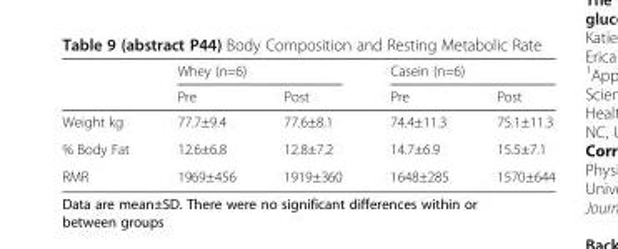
<table><thead><tr><td rowspan="2"></td><td colspan="2">Whey (n=6)</td><td colspan="2">Casein (n=6)</td></tr><tr><td>Pre</td><td>Post</td><td>Pre</td><td>Post</td></tr></thead><tbody><tr><td>Weight kg</td><td>77.7±9.4</td><td>77.6±8.1</td><td>74.4±11.3</td><td>75.1±11.3</td></tr><tr><td>% Body Fat</td><td>12.6±6.8</td><td>12.8±7.2</td><td>14.7±6.9</td><td>15.5±7.1</td></tr><tr><td>RMR</td><td>1969±456</td><td>1919±360</td><td>1648±285</td><td>1570±644</td></tr></tbody></table>